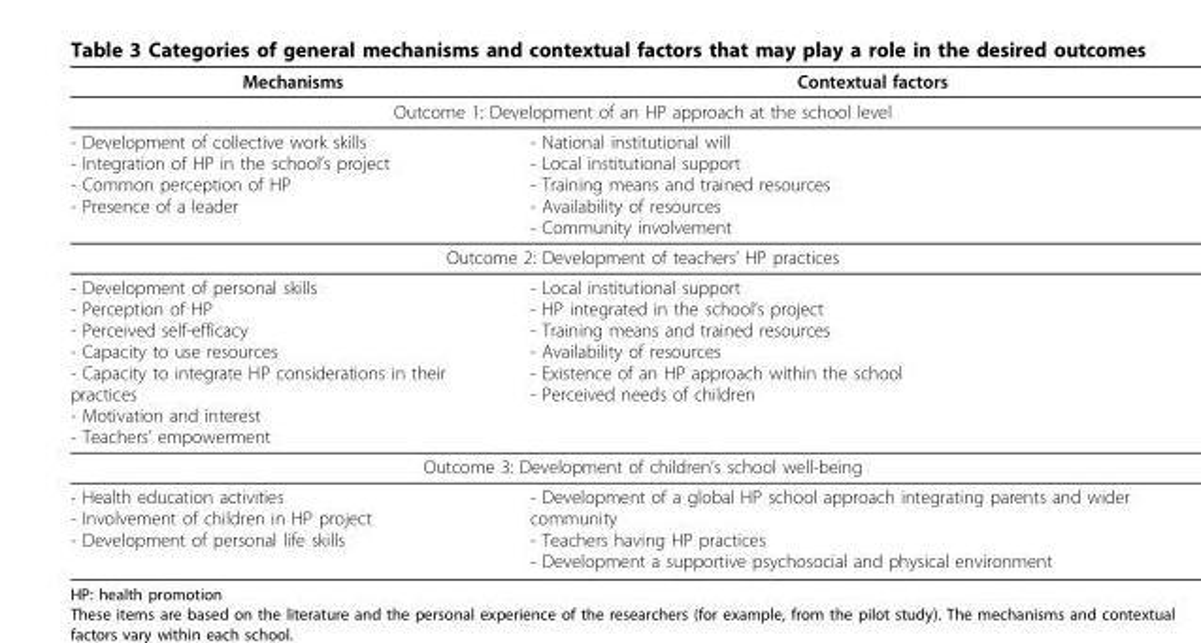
<table><thead><tr><td>Mechanisms</td><td>Contextual factors</td></tr></thead><tbody><tr><td colspan="2">Outcome 1: Development of an HP approach at the school level</td></tr><tr><td>- Development of collective work skills - Integration of HP in the school’s project - Common perception of HP - Presence of a leader</td><td>- National institutional will - Local institutional support - Training means and trained resources - Availability of resources - Community involvement</td></tr><tr><td colspan="2">Outcome 2: Development of teachers’ HP practices</td></tr><tr><td>- Development of personal skills - Perception of HP - Perceived self-efficacy - Capacity to use resources - Capacity to integrate HP considerations in their practices - Motivation and interest - Teachers’ empowerment</td><td>- Local institutional support - HP integrated in the school’s project - Training means and trained resources - Availability of resources - Existence of an HP approach within the school - Perceived needs of children</td></tr><tr><td colspan="2">Outcome 3: Development of children’s school well-being</td></tr><tr><td>- Health education activities - Involvement of children in HP project - Development of personal life skills</td><td>- Development of a global HP school approach integrating parents and wider community - Teachers having HP practices - Development a supportive psychosocial and physical environment</td></tr></tbody></table>